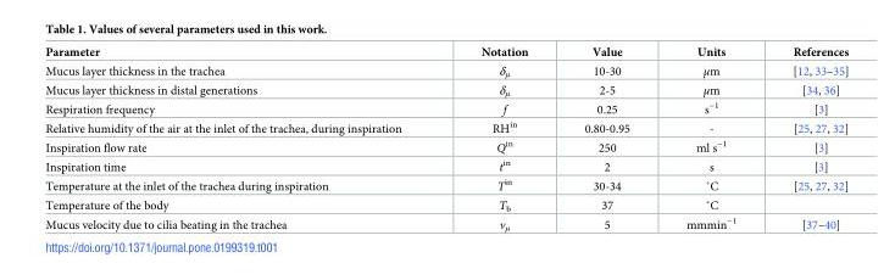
<table><thead><tr><td>Parameter</td><td>Notation</td><td>Value</td><td>Units</td><td>References</td></tr></thead><tbody><tr><td>Mucus layer thickness in the trachea</td><td>δ<sub>μ</sub></td><td>10-30</td><td>μm</td><td>[12, 33–35]</td></tr><tr><td>Mucus layer thickness in distal generations</td><td>δ<sub>μ</sub></td><td>2-5</td><td>μm</td><td>[34, 36]</td></tr><tr><td>Respiration frequency</td><td>f</td><td>0.25</td><td>s<sup>−1</sup></td><td>[3]</td></tr><tr><td>Relative humidity of the air at the inlet of the trachea, during inspiration</td><td>RH<sup>in</sup></td><td>0.80-0.95</td><td>-</td><td>[25, 27, 32]</td></tr><tr><td>Inspiration flow rate</td><td>Q<sup>in</sup></td><td>250</td><td>ml s<sup>−1</sup></td><td>[3]</td></tr><tr><td>Inspiration time</td><td>t<sup>in</sup></td><td>2</td><td>s</td><td>[3]</td></tr><tr><td>Temperature at the inlet of the trachea during inspiration</td><td>T<sup>in</sup></td><td>30-34</td><td>˚C</td><td>[25, 27, 32]</td></tr><tr><td>Temperature of the body</td><td>T<sub>b</sub></td><td>37</td><td>˚C</td><td></td></tr><tr><td>Mucus velocity due to cilia beating in the trachea</td><td>v<sub>μ</sub></td><td>5</td><td>mmmin<sup>−1</sup></td><td>[37–40]</td></tr></tbody></table>